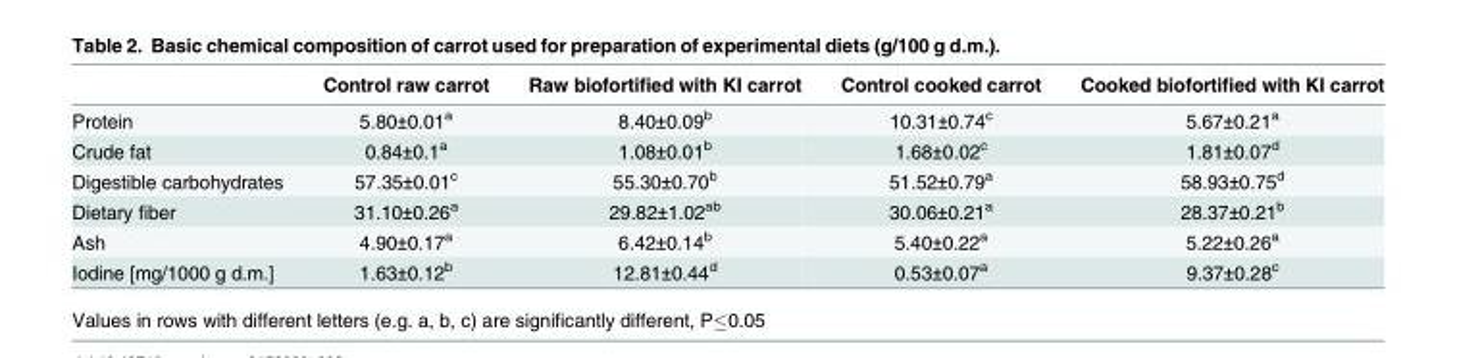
<table><thead><tr><td></td><td>Control raw carrot</td><td>Raw biofortified with KI carrot</td><td>Control cooked carrot</td><td>Cooked biofortified with KI carrot</td></tr></thead><tbody><tr><td>Protein</td><td>5.80±0.01<sup>a</sup></td><td>8.40±0.09<sup>b</sup></td><td>10.31±0.74<sup>c</sup></td><td>5.67±0.21<sup>a</sup></td></tr><tr><td>Crude fat</td><td>0.84±0.1<sup>a</sup></td><td>1.08±0.01<sup>b</sup></td><td>1.68±0.02<sup>c</sup></td><td>1.81±0.07<sup>d</sup></td></tr><tr><td>Digestible carbohydrates</td><td>57.35±0.01<sup>c</sup></td><td>55.30±0.70<sup>b</sup></td><td>51.52±0.79<sup>a</sup></td><td>58.93±0.75<sup>d</sup></td></tr><tr><td>Dietary fiber</td><td>31.10±0.26<sup>a</sup></td><td>29.82±1.02<sup>ab</sup></td><td>30.06±0.21<sup>a</sup></td><td>28.37±0.21<sup>b</sup></td></tr><tr><td>Ash</td><td>4.90±0.17<sup>a</sup></td><td>6.42±0.14<sup>b</sup></td><td>5.40±0.22<sup>a</sup></td><td>5.22±0.26<sup>a</sup></td></tr><tr><td>Iodine [mg/1000 g d.m.]</td><td>1.63±0.12<sup>b</sup></td><td>12.81±0.44<sup>d</sup></td><td>0.53±0.07<sup>a</sup></td><td>9.37±0.28<sup>c</sup></td></tr></tbody></table>